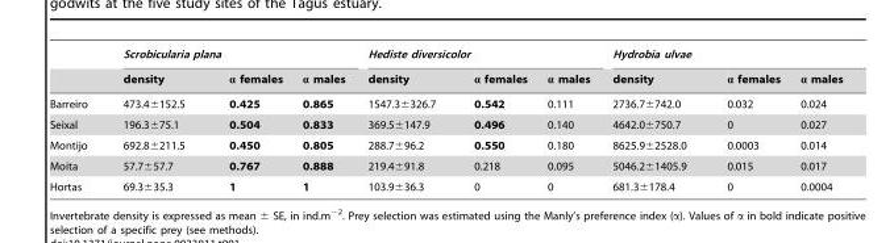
<table><thead><tr><td rowspan="2"></td><td colspan="3">Scrobicularia plana</td><td colspan="3">Hediste diversicolor</td><td colspan="3">Hydrobia ulvae</td></tr><tr><td>density</td><td>α females</td><td>α males</td><td>density</td><td>α females</td><td>α males</td><td>density</td><td>α females</td><td>α males</td></tr></thead><tbody><tr><td>Barreiro</td><td>473.4±152.5</td><td>0.425</td><td>0.865</td><td>1547.3±326.7</td><td>0.542</td><td>0.111</td><td>2736.7±742.0</td><td>0.032</td><td>0.024</td></tr><tr><td>Seixal</td><td>196.3±75.1</td><td>0.504</td><td>0.833</td><td>369.5±147.9</td><td>0.496</td><td>0.140</td><td>4642.0±750.7</td><td>0</td><td>0.027</td></tr><tr><td>Montijo</td><td>692.8±211.5</td><td>0.450</td><td>0.805</td><td>288.7±96.2</td><td>0.550</td><td>0.180</td><td>8625.9±2528.0</td><td>0.0003</td><td>0.014</td></tr><tr><td>Moita</td><td>57.7±57.7</td><td>0.767</td><td>0.888</td><td>219.4±91.8</td><td>0.218</td><td>0.095</td><td>5046.2±1405.9</td><td>0.015</td><td>0.017</td></tr><tr><td>Hortas</td><td>69.3±35.3</td><td>1</td><td>1</td><td>103.9±36.3</td><td>0</td><td>0</td><td>681.3±178.4</td><td>0</td><td>0.0004</td></tr></tbody></table>